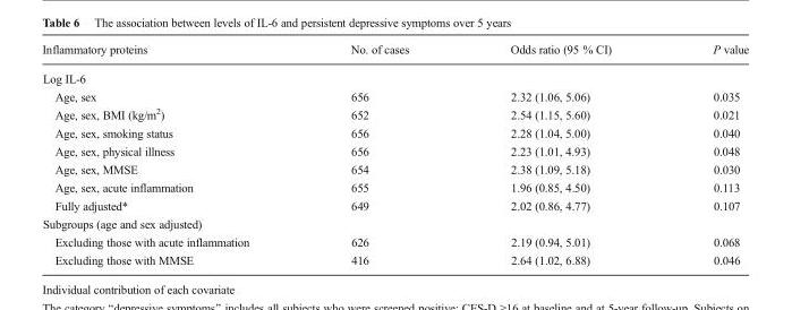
<table><thead><tr><td>Inflammatory proteins</td><td>No. of cases</td><td>Odds ratio (95 % CI)</td><td>P value</td></tr></thead><tbody><tr><td colspan="4">Log IL-6</td></tr><tr><td>Age, sex</td><td>656</td><td>2.32 (1.06, 5.06)</td><td>0.035</td></tr><tr><td>Age, sex, BMI (kg/m<sup>2</sup>)</td><td>652</td><td>2.54 (1.15, 5.60)</td><td>0.021</td></tr><tr><td>Age, sex, smoking status</td><td>656</td><td>2.28 (1.04, 5.00)</td><td>0.040</td></tr><tr><td>Age, sex, physical illness</td><td>656</td><td>2.23 (1.01, 4.93)</td><td>0.048</td></tr><tr><td>Age, sex, MMSE</td><td>654</td><td>2.38 (1.09, 5.18)</td><td>0.030</td></tr><tr><td>Age, sex, acute inflammation</td><td>655</td><td>1.96 (0.85, 4.50)</td><td>0.113</td></tr><tr><td>Fully adjusted*</td><td>649</td><td>2.02 (0.86, 4.77)</td><td>0.107</td></tr><tr><td colspan="4">Subgroups (age and sex adjusted)</td></tr><tr><td>Excluding those with acute inflammation</td><td>626</td><td>2.19 (0.94, 5.01)</td><td>0.068</td></tr><tr><td>Excluding those with MMSE</td><td>416</td><td>2.64 (1.02, 6.88)</td><td>0.046</td></tr></tbody></table>